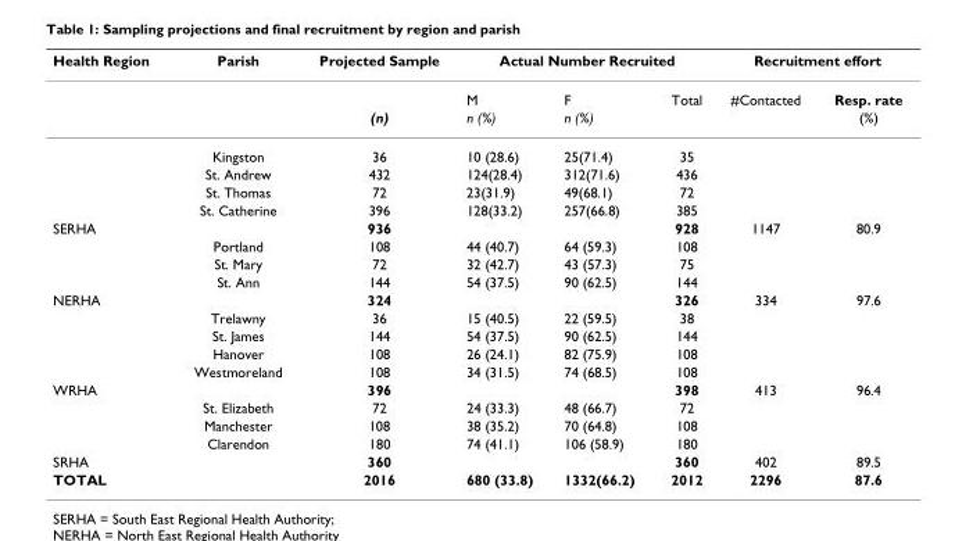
<table><thead><tr><td rowspan="2">Health Region</td><td rowspan="2">Parish</td><td rowspan="2">Projected Sample</td><td colspan="3">Actual Number Recruited</td><td colspan="2">Recruitment effort</td></tr><tr><td>M</td><td>F</td><td>Total</td><td>#Contacted</td><td>Resp. rate</td></tr></thead><tbody><tr><td></td><td></td><td>(n)</td><td>n (%)</td><td>n (%)</td><td></td><td></td><td>(%)</td></tr><tr><td></td><td>Kingston</td><td>36</td><td>10 (28.6)</td><td>25(71.4)</td><td>35</td><td></td><td></td></tr><tr><td></td><td>St. Andrew</td><td>432</td><td>124(28.4)</td><td>312(71.6)</td><td>436</td><td></td><td></td></tr><tr><td></td><td>St. Thomas</td><td>72</td><td>23(31.9)</td><td>49(68.1)</td><td>72</td><td></td><td></td></tr><tr><td></td><td>St. Catherine</td><td>396</td><td>128(33.2)</td><td>257(66.8)</td><td>385</td><td></td><td></td></tr><tr><td rowspan="4">SERHA</td><td></td><td>936</td><td></td><td></td><td>928</td><td>1147</td><td>80.9</td></tr><tr><td>Portland</td><td>108</td><td>44 (40.7)</td><td>64 (59.3)</td><td>108</td><td></td><td></td></tr><tr><td>St. Mary</td><td>72</td><td>32 (42.7)</td><td>43 (57.3)</td><td>75</td><td></td><td></td></tr><tr><td>St. Ann</td><td>144</td><td>54 (37.5)</td><td>90 (62.5)</td><td>144</td><td></td><td></td></tr><tr><td rowspan="5">NERHA</td><td></td><td>324</td><td></td><td></td><td>326</td><td>334</td><td>97.6</td></tr><tr><td>Trelawny</td><td>36</td><td>15 (40.5)</td><td>22 (59.5)</td><td>38</td><td></td><td></td></tr><tr><td>St. James</td><td>144</td><td>54 (37.5)</td><td>90 (62.5)</td><td>144</td><td></td><td></td></tr><tr><td>Hanover</td><td>108</td><td>26 (24.1)</td><td>82 (75.9)</td><td>108</td><td></td><td></td></tr><tr><td>Westmoreland</td><td>108</td><td>34 (31.5)</td><td>74 (68.5)</td><td>108</td><td></td><td></td></tr><tr><td rowspan="4">WRHA</td><td></td><td>396</td><td></td><td></td><td>398</td><td>413</td><td>96.4</td></tr><tr><td>St. Elizabeth</td><td>72</td><td>24 (33.3)</td><td>48 (66.7)</td><td>72</td><td></td><td></td></tr><tr><td>Manchester</td><td>108</td><td>38 (35.2)</td><td>70 (64.8)</td><td>108</td><td></td><td></td></tr><tr><td>Clarendon</td><td>180</td><td>74 (41.1)</td><td>106 (58.9)</td><td>180</td><td></td><td></td></tr><tr><td>SRHA</td><td></td><td>360</td><td></td><td></td><td>360</td><td>402</td><td>89.5</td></tr><tr><td>TOTAL</td><td></td><td>2016</td><td>680 (33.8)</td><td>1332(66.2)</td><td>2012</td><td>2296</td><td>87.6</td></tr></tbody></table>